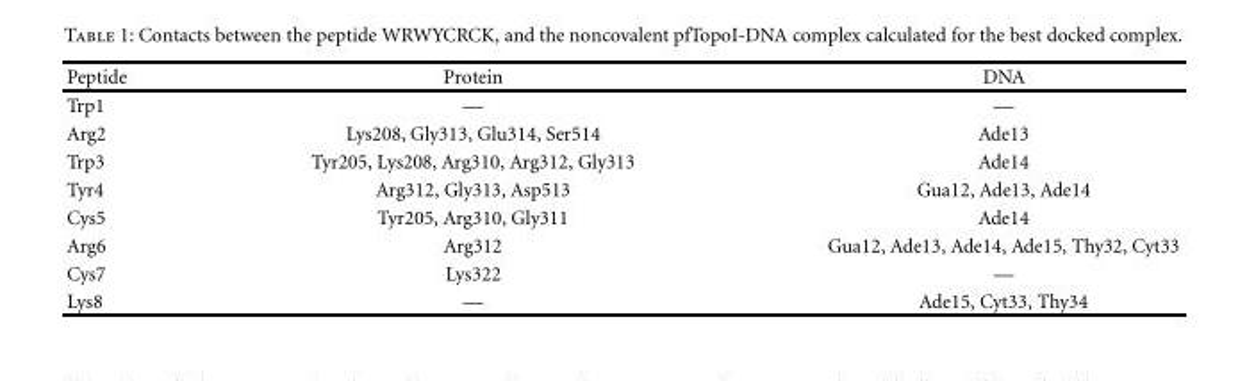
<table><thead><tr><td>Peptide</td><td>Protein</td><td>DNA</td></tr></thead><tbody><tr><td>Trp1</td><td>—</td><td>—</td></tr><tr><td>Arg2</td><td>Lys208, Gly313, Glu314, Ser514</td><td>Ade13</td></tr><tr><td>Trp3</td><td>Tyr205, Lys208, Arg310, Arg312, Gly313</td><td>Ade14</td></tr><tr><td>Tyr4</td><td>Arg312, Gly313, Asp513</td><td>Gua12, Ade13, Ade14</td></tr><tr><td>Cys5</td><td>Tyr205, Arg310, Gly311</td><td>Ade14</td></tr><tr><td>Arg6</td><td>Arg312</td><td>Gua12, Ade13, Ade14, Ade15, Thy32, Cyt33</td></tr><tr><td>Cys7</td><td>Lys322</td><td>—</td></tr><tr><td>Lys8</td><td>—</td><td>Ade15, Cyt33, Thy34</td></tr></tbody></table>